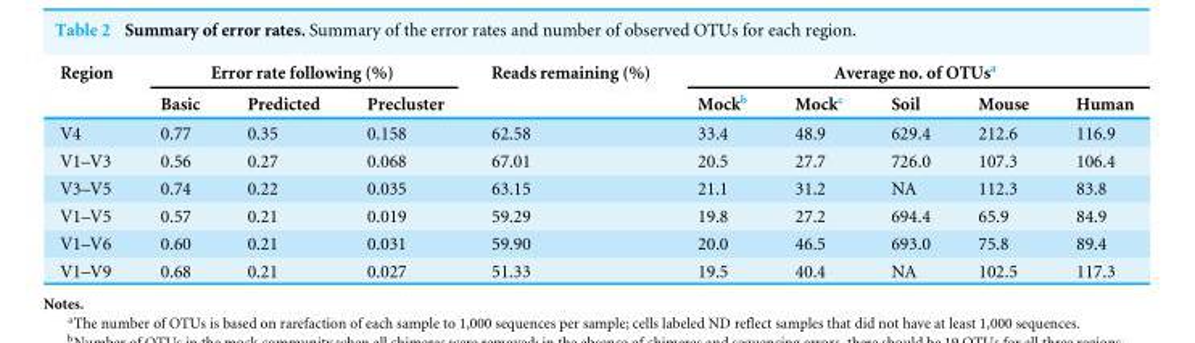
<table><thead><tr><td rowspan="2">Region</td><td colspan="3">Error rate following (%)</td><td rowspan="2">Reads remaining (%)</td><td colspan="5">Average no. of OTUs<sup>a</sup></td></tr><tr><td>Basic</td><td>Predicted</td><td>Precluster</td><td>Mock<sup>b</sup></td><td>Mock<sup>c</sup></td><td>Soil</td><td>Mouse</td><td>Human</td></tr></thead><tbody><tr><td>V4</td><td>0.77</td><td>0.35</td><td>0.158</td><td>62.58</td><td>33.4</td><td>48.9</td><td>629.4</td><td>212.6</td><td>116.9</td></tr><tr><td>V1–V3</td><td>0.56</td><td>0.27</td><td>0.068</td><td>67.01</td><td>20.5</td><td>27.7</td><td>726.0</td><td>107.3</td><td>106.4</td></tr><tr><td>V3–V5</td><td>0.74</td><td>0.22</td><td>0.035</td><td>63.15</td><td>21.1</td><td>31.2</td><td>NA</td><td>112.3</td><td>83.8</td></tr><tr><td>V1–V5</td><td>0.57</td><td>0.21</td><td>0.019</td><td>59.29</td><td>19.8</td><td>27.2</td><td>694.4</td><td>65.9</td><td>84.9</td></tr><tr><td>V1–V6</td><td>0.60</td><td>0.21</td><td>0.031</td><td>59.90</td><td>20.0</td><td>46.5</td><td>693.0</td><td>75.8</td><td>89.4</td></tr><tr><td>V1–V9</td><td>0.68</td><td>0.21</td><td>0.027</td><td>51.33</td><td>19.5</td><td>40.4</td><td>NA</td><td>102.5</td><td>117.3</td></tr></tbody></table>